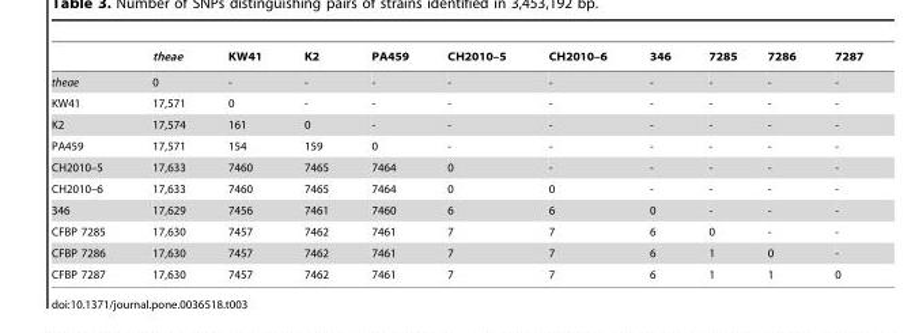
<table><thead><tr><td></td><td>theae</td><td>KW41</td><td>K2</td><td>PA459</td><td>CH2010–5</td><td>CH2010–6</td><td>346</td><td>7285</td><td>7286</td><td>7287</td></tr></thead><tbody><tr><td>theae</td><td>0</td><td>-</td><td>-</td><td>-</td><td>-</td><td>-</td><td>-</td><td>-</td><td>-</td><td>-</td></tr><tr><td>KW41</td><td>17,571</td><td>0</td><td>-</td><td>-</td><td>-</td><td>-</td><td>-</td><td>-</td><td>-</td><td>-</td></tr><tr><td>K2</td><td>17,574</td><td>161</td><td>0</td><td>-</td><td>-</td><td>-</td><td>-</td><td>-</td><td>-</td><td>-</td></tr><tr><td>PA459</td><td>17,571</td><td>154</td><td>159</td><td>0</td><td>-</td><td>-</td><td>-</td><td>-</td><td>-</td><td>-</td></tr><tr><td>CH2010–5</td><td>17,633</td><td>7460</td><td>7465</td><td>7464</td><td>0</td><td>-</td><td>-</td><td>-</td><td>-</td><td>-</td></tr><tr><td>CH2010–6</td><td>17,633</td><td>7460</td><td>7465</td><td>7464</td><td>0</td><td>0</td><td>-</td><td>-</td><td>-</td><td>-</td></tr><tr><td>346</td><td>17,629</td><td>7456</td><td>7461</td><td>7460</td><td>6</td><td>6</td><td>0</td><td>-</td><td>-</td><td>-</td></tr><tr><td>CFBP 7285</td><td>17,630</td><td>7457</td><td>7462</td><td>7461</td><td>7</td><td>7</td><td>6</td><td>0</td><td>-</td><td>-</td></tr><tr><td>CFBP 7286</td><td>17,630</td><td>7457</td><td>7462</td><td>7461</td><td>7</td><td>7</td><td>6</td><td>1</td><td>0</td><td>-</td></tr><tr><td>CFBP 7287</td><td>17,630</td><td>7457</td><td>7462</td><td>7461</td><td>7</td><td>7</td><td>6</td><td>1</td><td>1</td><td>0</td></tr></tbody></table>